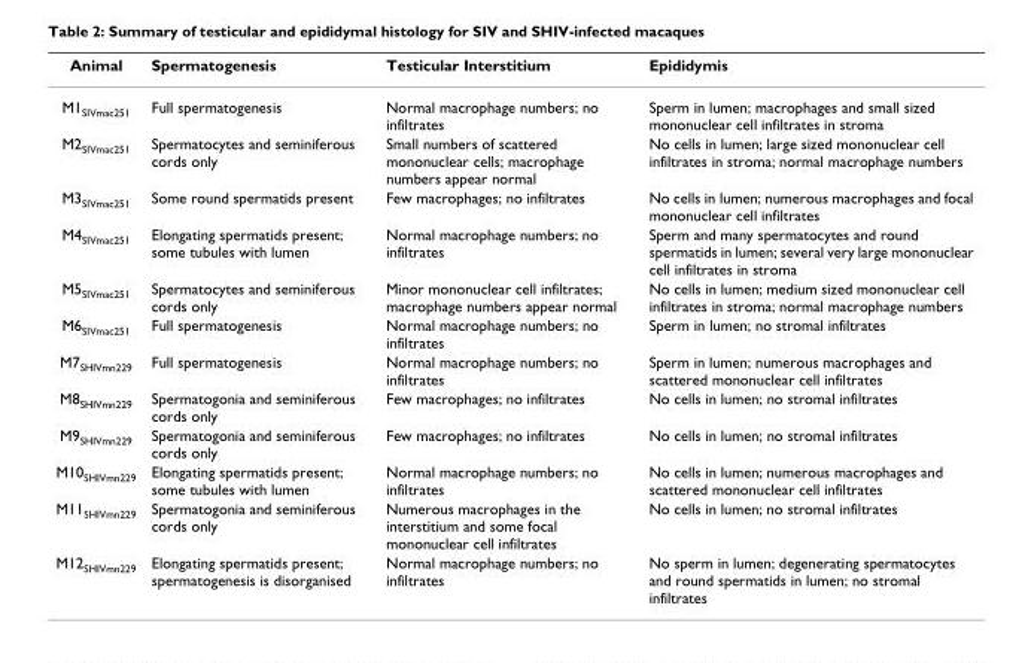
<table><thead><tr><td>Animal</td><td>Spermatogenesis</td><td>Testicular Interstitium</td><td>Epididymis</td></tr></thead><tbody><tr><td>M1<sub>SIVmac251</sub></td><td>Full spermatogenesis</td><td>Normal macrophage numbers; no infiltrates</td><td>Sperm in lumen; macrophages and small sized mononuclear cell infiltrates in stroma</td></tr><tr><td>M2<sub>SIVmac251</sub></td><td>Spermatocytes and seminiferous cords only</td><td>Small numbers of scattered mononuclear cells; macrophage numbers appear normal</td><td>No cells in lumen; large sized mononuclear cell infiltrates in stroma; normal macrophage numbers</td></tr><tr><td>M3<sub>SIVmac251</sub></td><td>Some round spermatids present</td><td>Few macrophages; no infiltrates</td><td>No cells in lumen; numerous macrophages and focal mononuclear cell infiltrates</td></tr><tr><td>M4<sub>SIVmac251</sub></td><td>Elongating spermatids present; some tubules with lumen</td><td>Normal macrophage numbers; no infiltrates</td><td>Sperm and many spermatocytes and round spermatids in lumen; several very large mononuclear cell infiltrates in stroma</td></tr><tr><td>M5<sub>SIVmac251</sub></td><td>Spermatocytes and seminiferous cords only</td><td>Minor mononuclear cell infiltrates; macrophage numbers appear normal</td><td>No cells in lumen; medium sized mononuclear cell infiltrates in stroma; normal macrophage numbers</td></tr><tr><td>M6<sub>SIVmac251</sub></td><td>Full spermatogenesis</td><td>Normal macrophage numbers; no infiltrates</td><td>Sperm in lumen; no stromal infiltrates</td></tr><tr><td>M7<sub>SHIVmn229</sub></td><td>Full spermatogenesis</td><td>Normal macrophage numbers; no infiltrates</td><td>Sperm in lumen; numerous macrophages and scattered mononuclear cell infiltrates</td></tr><tr><td>M8<sub>SHIVmn229</sub></td><td>Spermatogonia and seminiferous cords only</td><td>Few macrophages; no infiltrates</td><td>No cells in lumen; no stromal infiltrates</td></tr><tr><td>M9<sub>SHIVmn229</sub></td><td>Spermatogonia and seminiferous cords only</td><td>Few macrophages; no infiltrates</td><td>No cells in lumen; no stromal infiltrates</td></tr><tr><td>M10<sub>SHIVmn229</sub></td><td>Elongating spermatids present; some tubules with lumen</td><td>Normal macrophage numbers; no infiltrates</td><td>No cells in lumen; numerous macrophages and scattered mononuclear cell infiltrates</td></tr><tr><td>M11<sub>SHIVmn229</sub></td><td>Spermatogonia and seminiferous cords only</td><td>Numerous macrophages in the interstitium and some focal mononuclear cell infiltrates</td><td>No cells in lumen; no stromal infiltrates</td></tr><tr><td>M12<sub>SHIVmn229</sub></td><td>Elongating spermatids present; spermatogenesis is disorganised</td><td>Normal macrophage numbers; no infiltrates</td><td>No sperm in lumen; degenerating spermatocytes and round spermatids in lumen; no stromal infiltrates</td></tr></tbody></table>